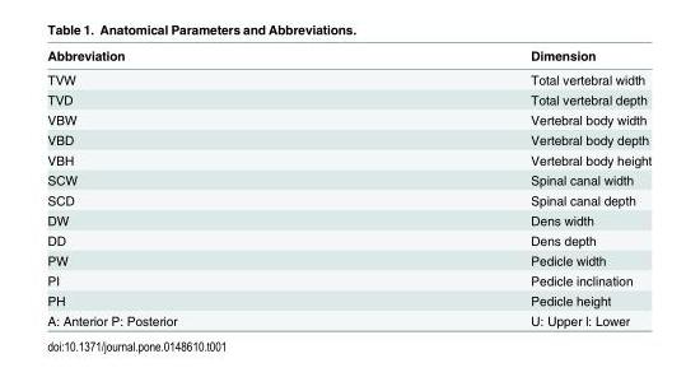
<table><thead><tr><td>Abbreviation</td><td>Dimension</td></tr></thead><tbody><tr><td>TVW</td><td>Total vertebral width</td></tr><tr><td>TVD</td><td>Total vertebral depth</td></tr><tr><td>VBW</td><td>Vertebral body width</td></tr><tr><td>VBD</td><td>Vertebral body depth</td></tr><tr><td>VBH</td><td>Vertebral body height</td></tr><tr><td>SCW</td><td>Spinal canal width</td></tr><tr><td>SCD</td><td>Spinal canal depth</td></tr><tr><td>DW</td><td>Dens width</td></tr><tr><td>DD</td><td>Dens depth</td></tr><tr><td>PW</td><td>Pedicle width</td></tr><tr><td>PI</td><td>Pedicle inclination</td></tr><tr><td>PH</td><td>Pedicle height</td></tr><tr><td>A: Anterior P: Posterior</td><td>U: Upper l: Lower</td></tr></tbody></table>